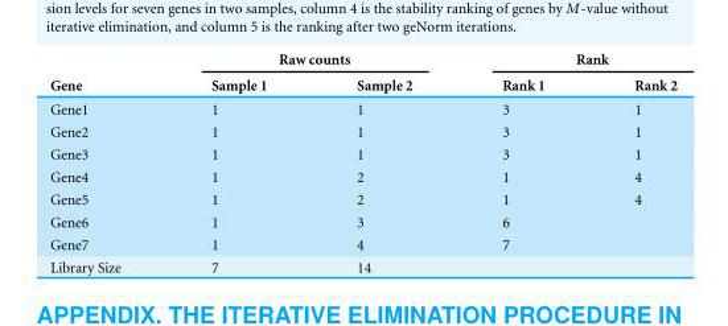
<table><thead><tr><td rowspan="2">Gene</td><td colspan="2">Raw counts</td><td colspan="2">Rank</td></tr><tr><td>Sample 1</td><td>Sample 2</td><td>Rank 1</td><td>Rank 2</td></tr></thead><tbody><tr><td>Gene1</td><td>1</td><td>1</td><td>3</td><td>1</td></tr><tr><td>Gene2</td><td>1</td><td>1</td><td>3</td><td>1</td></tr><tr><td>Gene3</td><td>1</td><td>1</td><td>3</td><td>1</td></tr><tr><td>Gene4</td><td>1</td><td>2</td><td>1</td><td>4</td></tr><tr><td>Gene5</td><td>1</td><td>2</td><td>1</td><td>4</td></tr><tr><td>Gene6</td><td>1</td><td>3</td><td>6</td><td></td></tr><tr><td>Gene7</td><td>1</td><td>4</td><td>7</td><td></td></tr><tr><td>Library Size</td><td>7</td><td>14</td><td></td><td></td></tr></tbody></table>